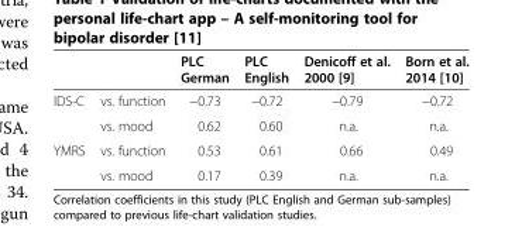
<table><thead><tr><td></td><td></td><td>PLC German</td><td>PLC English</td><td>Denicoff et al. 2000 [9]</td><td>Born et al. 2014 [10]</td></tr></thead><tbody><tr><td rowspan="2">IDS-C</td><td>vs. function</td><td>−0.73</td><td>−0.72</td><td>−0.79</td><td>−0.72</td></tr><tr><td>vs. mood</td><td>0.62</td><td>0.60</td><td>n.a.</td><td>n.a.</td></tr><tr><td rowspan="2">YMRS</td><td>vs. function</td><td>0.53</td><td>0.61</td><td>0.66</td><td>0.49</td></tr><tr><td>vs. mood</td><td>0.17</td><td>0.39</td><td>n.a.</td><td>n.a.</td></tr></tbody></table>